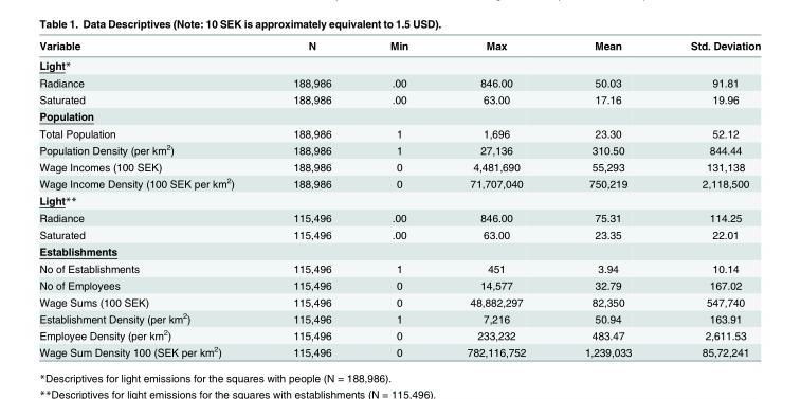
<table><thead><tr><td>Variable</td><td>N</td><td>Min</td><td>Max</td><td>Mean</td><td>Std. Deviation</td></tr></thead><tbody><tr><td colspan="6">Light*</td></tr><tr><td>Radiance</td><td>188,986</td><td>.00</td><td>846.00</td><td>50.03</td><td>91.81</td></tr><tr><td>Saturated</td><td>188,986</td><td>.00</td><td>63.00</td><td>17.16</td><td>19.96</td></tr><tr><td colspan="6">Population</td></tr><tr><td>Total Population</td><td>188,986</td><td>1</td><td>1,696</td><td>23.30</td><td>52.12</td></tr><tr><td>Population Density (per km<sup>2</sup>)</td><td>188,986</td><td>1</td><td>27,136</td><td>310.50</td><td>844.44</td></tr><tr><td>Wage Incomes (100 SEK)</td><td>188,986</td><td>0</td><td>4,481,690</td><td>55,293</td><td>131,138</td></tr><tr><td>Wage Income Density (100 SEK per km<sup>2</sup>)</td><td>188,986</td><td>0</td><td>71,707,040</td><td>750,219</td><td>2,118,500</td></tr><tr><td colspan="6">Light**</td></tr><tr><td>Radiance</td><td>115,496</td><td>.00</td><td>846.00</td><td>75.31</td><td>114.25</td></tr><tr><td>Saturated</td><td>115,496</td><td>.00</td><td>63.00</td><td>23.35</td><td>22.01</td></tr><tr><td colspan="6">Establishments</td></tr><tr><td>No of Establishments</td><td>115,496</td><td>1</td><td>451</td><td>3.94</td><td>10.14</td></tr><tr><td>No of Employees</td><td>115,496</td><td>0</td><td>14,577</td><td>32.79</td><td>167.02</td></tr><tr><td>Wage Sums (100 SEK)</td><td>115,496</td><td>0</td><td>48,882,297</td><td>82,350</td><td>547,740</td></tr><tr><td>Establishment Density (per km<sup>2</sup>)</td><td>115,496</td><td>1</td><td>7,216</td><td>50.94</td><td>163.91</td></tr><tr><td>Employee Density (per km<sup>2</sup>)</td><td>115,496</td><td>0</td><td>233,232</td><td>483.47</td><td>2,611.53</td></tr><tr><td>Wage Sum Density 100 (SEK per km<sup>2</sup>)</td><td>115,496</td><td>0</td><td>782,116,752</td><td>1,239,033</td><td>85,72,241</td></tr></tbody></table>